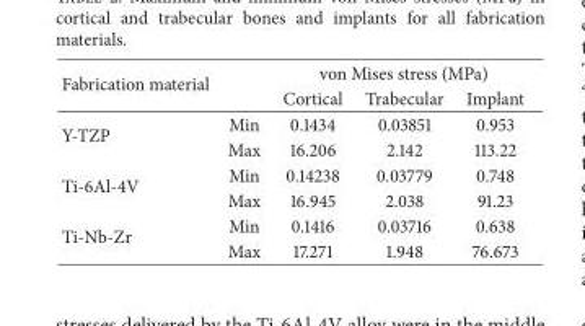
<table><thead><tr><td rowspan="2">Fabrication material</td><td rowspan="2"></td><td colspan="3">von Mises stress (MPa)</td></tr><tr><td>Cortical</td><td>Trabecular</td><td>Implant</td></tr></thead><tbody><tr><td rowspan="2">Y-TZP</td><td>Min</td><td>0.1434</td><td>0.03851</td><td>0.953</td></tr><tr><td>Max</td><td>16.206</td><td>2.142</td><td>113.22</td></tr><tr><td rowspan="2">Ti-6Al-4V</td><td>Min</td><td>0.14238</td><td>0.03779</td><td>0.748</td></tr><tr><td>Max</td><td>16.945</td><td>2.038</td><td>91.23</td></tr><tr><td rowspan="2">Ti-Nb-Zr</td><td>Min</td><td>0.1416</td><td>0.03716</td><td>0.638</td></tr><tr><td>Max</td><td>17.271</td><td>1.948</td><td>76.673</td></tr></tbody></table>